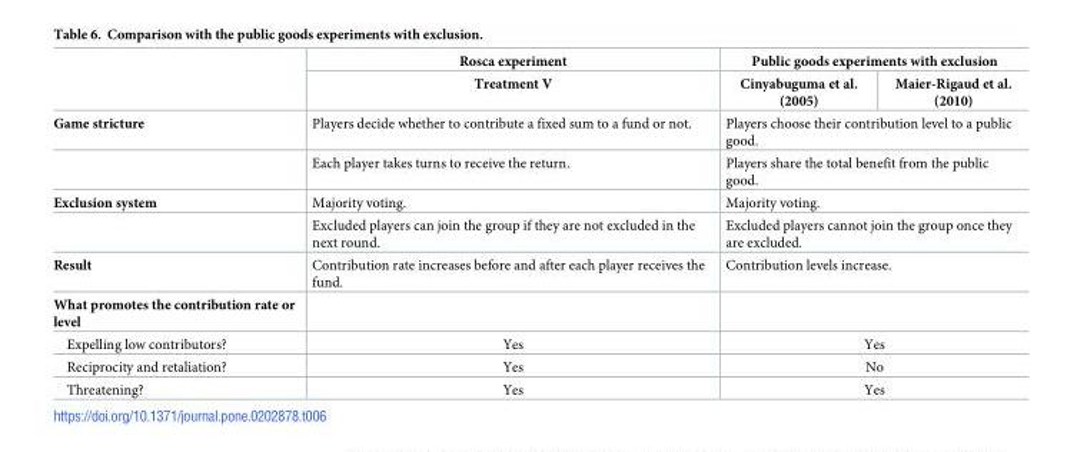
<table><thead><tr><td rowspan="2"></td><td rowspan="2">Rosca experiment Treatment V</td><td colspan="2">Public goods experiments with exclusion</td></tr><tr><td>Cinyabuguma et al. (2005)</td><td>Maier-Rigaud et al. (2010)</td></tr></thead><tbody><tr><td rowspan="2">Game stricture</td><td>Players decide whether to contribute a fixed sum to a fund or not.</td><td colspan="2">Players choose their contribution level to a public good.</td></tr><tr><td>Each player takes turns to receive the return.</td><td colspan="2">Players share the total benefit from the public good.</td></tr><tr><td rowspan="2">Exclusion system</td><td>Majority voting.</td><td colspan="2">Majority voting.</td></tr><tr><td>Excluded players can join the group if they are not excluded in the next round.</td><td colspan="2">Excluded players cannot join the group once they are excluded.</td></tr><tr><td>Result</td><td>Contribution rate increases before and after each player receives the fund.</td><td colspan="2">Contribution levels increase.</td></tr><tr><td colspan="4">What promotes the contribution rate or level</td></tr><tr><td>Expelling low contributors?</td><td>Yes</td><td colspan="2">Yes</td></tr><tr><td>Reciprocity and retaliation?</td><td>Yes</td><td colspan="2">No</td></tr><tr><td>Threatening?</td><td>Yes</td><td colspan="2">Yes</td></tr></tbody></table>